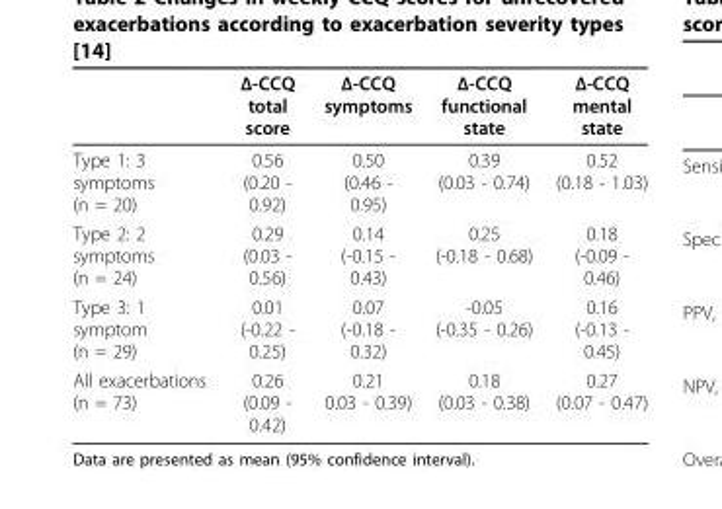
<table><thead><tr><td></td><td>Δ-CCQ total score</td><td>Δ-CCQ symptoms</td><td>Δ-CCQ functional state</td><td>Δ-CCQ mental state</td></tr></thead><tbody><tr><td>Type 1: 3 symptoms (n = 20)</td><td>0.56 (0.20 - 0.92)</td><td>0.50 (0.46 - 0.95)</td><td>0.39 (0.03 - 0.74)</td><td>0.52 (0.18 - 1.03)</td></tr><tr><td>Type 2: 2 symptoms (n = 24)</td><td>0.29 (0.03 - 0.56)</td><td>0.14 (-0.15 - 0.43)</td><td>0.25 (-0.18 - 0.68)</td><td>0.18 (-0.09 - 0.46)</td></tr><tr><td>Type 3: 1 symptom (n = 29)</td><td>0.01 (-0.22 - 0.25)</td><td>0.07 (-0.18 - 0.32)</td><td>-0.05 (-0.35 - 0.26)</td><td>0.16 (-0.13 - 0.45)</td></tr><tr><td>All exacerbations (n = 73)</td><td>0.26 (0.09 - 0.42)</td><td>0.21 0.03 - 0.39)</td><td>0.18 (0.03 - 0.38)</td><td>0.27 (0.07 - 0.47)</td></tr></tbody></table>